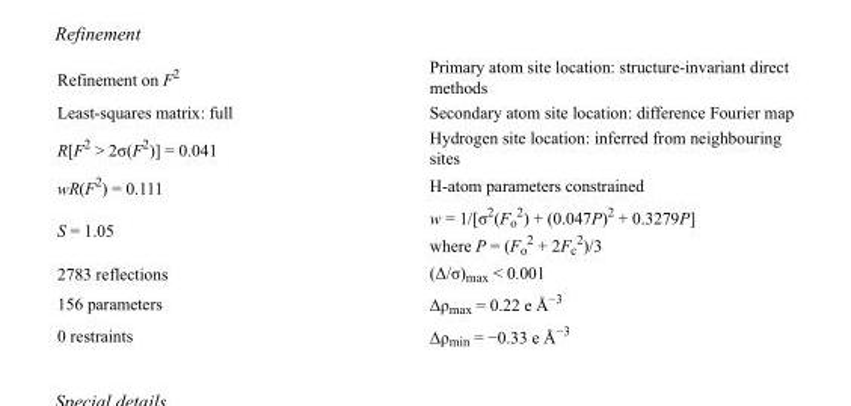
<table><tbody><tr><td>Refinement on F<sup>2</sup></td><td>Primary atom site location: structure-invariant direct methods</td></tr><tr><td>Least-squares matrix: full</td><td>Secondary atom site location: difference Fourier map</td></tr><tr><td>R[F<sup>2</sup> &gt; 2σ(F<sup>2</sup>)] = 0.041</td><td>Hydrogen site location: inferred from neighbouring sites</td></tr><tr><td>wR(F<sup>2</sup>) = 0.111</td><td>H-atom parameters constrained</td></tr><tr><td>S = 1.05</td><td>w = 1/[σ<sup>2</sup>(F<sub>o</sub> <sup>2</sup>) + (0.047P)<sup>2</sup> + 0.3279P] where P = (F<sub>o</sub> <sup>2</sup> + 2F<sub>c</sub> <sup>2</sup>)/3</td></tr><tr><td>2783 reflections</td><td>(Δ/σ)<sub>max</sub> &lt; 0.001</td></tr><tr><td>156 parameters</td><td>Δρ<sub>max</sub> = 0.22 e Å<sup>−3</sup></td></tr><tr><td>0 restraints</td><td>Δρmin = −0.33 e Å−3</td></tr></tbody></table>